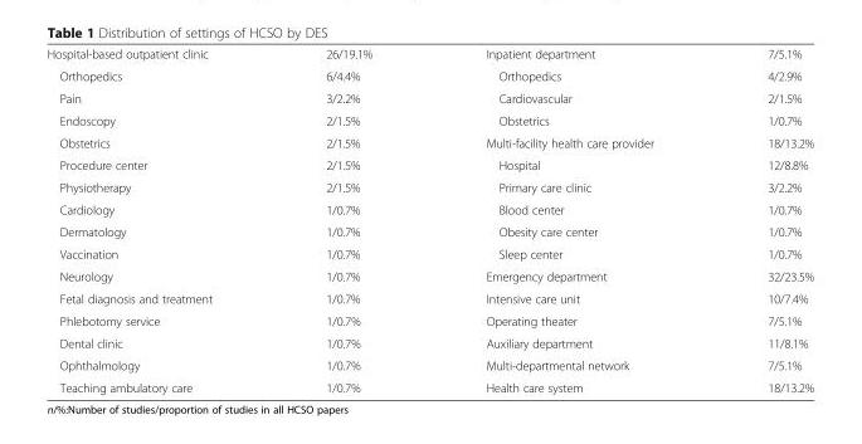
<table><tbody><tr><td>Hospital-based outpatient clinic</td><td>26/19.1%</td><td>Inpatient department</td><td>7/5.1%</td></tr><tr><td>Orthopedics</td><td>6/4.4%</td><td>Orthopedics</td><td>4/2.9%</td></tr><tr><td>Pain</td><td>3/2.2%</td><td>Cardiovascular</td><td>2/1.5%</td></tr><tr><td>Endoscopy</td><td>2/1.5%</td><td>Obstetrics</td><td>1/0.7%</td></tr><tr><td>Obstetrics</td><td>2/1.5%</td><td>Multi-facility health care provider</td><td>18/13.2%</td></tr><tr><td>Procedure center</td><td>2/1.5%</td><td>Hospital</td><td>12/8.8%</td></tr><tr><td>Physiotherapy</td><td>2/1.5%</td><td>Primary care clinic</td><td>3/2.2%</td></tr><tr><td>Cardiology</td><td>1/0.7%</td><td>Blood center</td><td>1/0.7%</td></tr><tr><td>Dermatology</td><td>1/0.7%</td><td>Obesity care center</td><td>1/0.7%</td></tr><tr><td>Vaccination</td><td>1/0.7%</td><td>Sleep center</td><td>1/0.7%</td></tr><tr><td>Neurology</td><td>1/0.7%</td><td>Emergency department</td><td>32/23.5%</td></tr><tr><td>Fetal diagnosis and treatment</td><td>1/0.7%</td><td>Intensive care unit</td><td>10/7.4%</td></tr><tr><td>Phlebotomy service</td><td>1/0.7%</td><td>Operating theater</td><td>7/5.1%</td></tr><tr><td>Dental clinic</td><td>1/0.7%</td><td>Auxiliary department</td><td>11/8.1%</td></tr><tr><td>Ophthalmology</td><td>1/0.7%</td><td>Multi-departmental network</td><td>7/5.1%</td></tr><tr><td>Teaching ambulatory care</td><td>1/0.7%</td><td>Health care system</td><td>18/13.2%</td></tr></tbody></table>